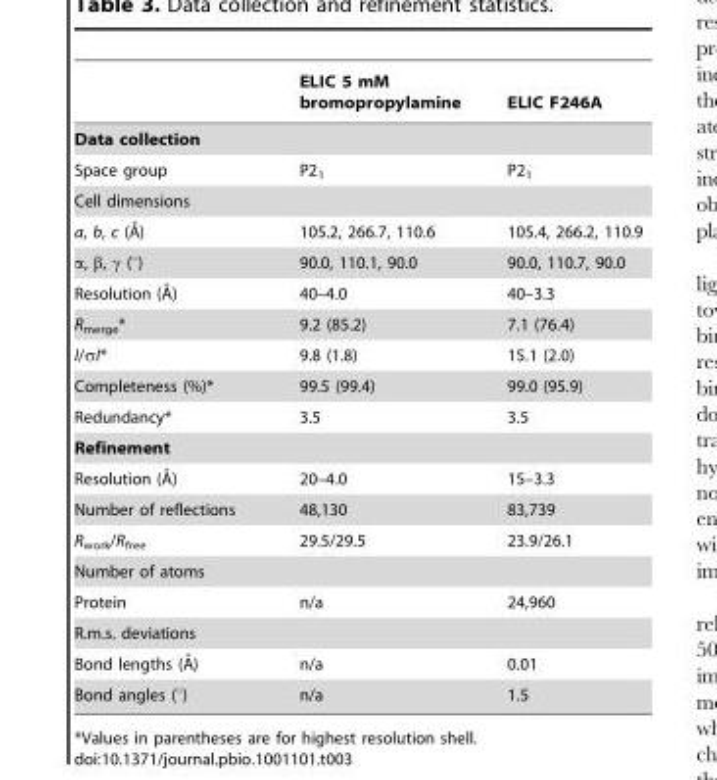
<table><thead><tr><td></td><td>ELIC 5 mM bromopropylamine</td><td>ELIC F246A</td></tr></thead><tbody><tr><td colspan="3">Data collection</td></tr><tr><td>Space group</td><td>P2<sub>1</sub></td><td>P2<sub>1</sub></td></tr><tr><td colspan="3">Cell dimensions</td></tr><tr><td>a, b, c (A˚)</td><td>105.2, 266.7, 110.6</td><td>105.4, 266.2, 110.9</td></tr><tr><td>α, β, γ (°)</td><td>90.0, 110.1, 90.0</td><td>90.0, 110.7, 90.0</td></tr><tr><td>Resolution (A˚)</td><td>40–4.0</td><td>40–3.3</td></tr><tr><td>R<sub>merge</sub>*</td><td>9.2 (85.2)</td><td>7.1 (76.4)</td></tr><tr><td>I/σI*</td><td>9.8 (1.8)</td><td>15.1 (2.0)</td></tr><tr><td>Completeness (%)*</td><td>99.5 (99.4)</td><td>99.0 (95.9)</td></tr><tr><td>Redundancy*</td><td>3.5</td><td>3.5</td></tr><tr><td colspan="3">Refinement</td></tr><tr><td>Resolution (A˚)</td><td>20–4.0</td><td>15–3.3</td></tr><tr><td>Number of reflections</td><td>48,130</td><td>83,739</td></tr><tr><td>R<sub>work</sub>/R<sub>free</sub></td><td>29.5/29.5</td><td>23.9/26.1</td></tr><tr><td colspan="3">Number of atoms</td></tr><tr><td>Protein</td><td>n/a</td><td>24,960</td></tr><tr><td colspan="3">R.m.s. deviations</td></tr><tr><td>Bond lengths (A˚)</td><td>n/a</td><td>0.01</td></tr><tr><td>Bond angles (°)</td><td>n/a</td><td>1.5</td></tr></tbody></table>